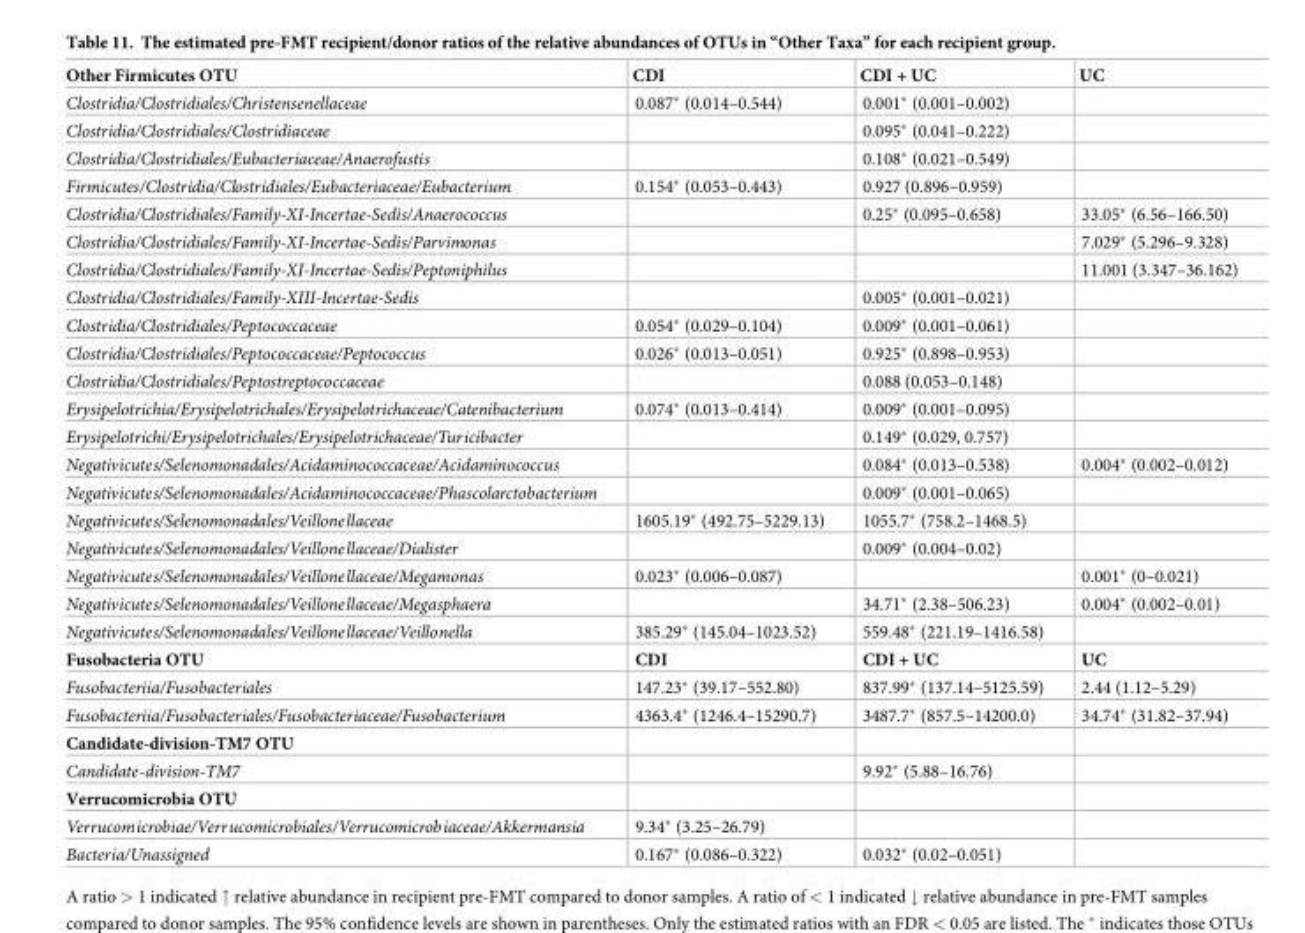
<table><thead><tr><td>Other Firmicutes OTU</td><td>CDI</td><td>CDI + UC</td><td>UC</td></tr></thead><tbody><tr><td>Clostridia/Clostridiales/Christensenellaceae</td><td>0.087* (0.014–0.544)</td><td>0.001* (0.001–0.002)</td><td></td></tr><tr><td>Clostridia/Clostridiales/Clostridiaceae</td><td></td><td>0.095* (0.041–0.222)</td><td></td></tr><tr><td>Clostridia/Clostridiales/Eubacteriaceae/Anaerofustis</td><td></td><td>0.108* (0.021–0.549)</td><td></td></tr><tr><td>Firmicutes/Clostridia/Clostridiales/Eubacteriaceae/Eubacterium</td><td>0.154* (0.053–0.443)</td><td>0.927 (0.896–0.959)</td><td></td></tr><tr><td>Clostridia/Clostridiales/Family-XI-Incertae-Sedis/Anaerococcus</td><td></td><td>0.25* (0.095–0.658)</td><td>33.05* (6.56–166.50)</td></tr><tr><td>Clostridia/Clostridiales/Family-XI-Incertae-Sedis/Parvimonas</td><td></td><td></td><td>7.029* (5.296–9.328)</td></tr><tr><td>Clostridia/Clostridiales/Family-XI-Incertae-Sedis/Peptoniphilus</td><td></td><td></td><td>11.001 (3.347–36.162)</td></tr><tr><td>Clostridia/Clostridiales/Family-XIII-Incertae-Sedis</td><td></td><td>0.005* (0.001–0.021)</td><td></td></tr><tr><td>Clostridia/Clostridiales/Peptococcaceae</td><td>0.054* (0.029–0.104)</td><td>0.009* (0.001–0.061)</td><td></td></tr><tr><td>Clostridia/Clostridiales/Peptococcaceae/Peptococcus</td><td>0.026* (0.013–0.051)</td><td>0.925* (0.898–0.953)</td><td></td></tr><tr><td>Clostridia/Clostridiales/Peptostreptococcaceae</td><td></td><td>0.088 (0.053–0.148)</td><td></td></tr><tr><td>Erysipelotrichia/Erysipelotrichales/Erysipelotrichaceae/Catenibacterium</td><td>0.074* (0.013–0.414)</td><td>0.009* (0.001–0.095)</td><td></td></tr><tr><td>Erysipelotrichi/Erysipelotrichales/Erysipelotrichaceae/Turicibacter</td><td></td><td>0.149* (0.029, 0.757)</td><td></td></tr><tr><td>Negativicutes/Selenomonadales/Acidaminococcaceae/Acidaminococcus</td><td></td><td>0.084* (0.013–0.538)</td><td>0.004* (0.002–0.012)</td></tr><tr><td>Negativicutes/Selenomonadales/Acidaminococcaceae/Phascolarctobacterium</td><td></td><td>0.009* (0.001–0.065)</td><td></td></tr><tr><td>Negativicutes/Selenomonadales/Veillonellaceae</td><td>1605.19* (492.75–5229.13)</td><td>1055.7* (758.2–1468.5)</td><td></td></tr><tr><td>Negativicutes/Selenomonadales/Veillonellaceae/Dialister</td><td></td><td>0.009* (0.004–0.02)</td><td></td></tr><tr><td>Negativicutes/Selenomonadales/Veillonellaceae/Megamonas</td><td>0.023* (0.006–0.087)</td><td></td><td>0.001* (0–0.021)</td></tr><tr><td>Negativicutes/Selenomonadales/Veillonellaceae/Megasphaera</td><td></td><td>34.71* (2.38–506.23)</td><td>0.004* (0.002–0.01)</td></tr><tr><td>Negativicutes/Selenomonadales/Veillonellaceae/Veillonella</td><td>385.29* (145.04–1023.52)</td><td>559.48* (221.19–1416.58)</td><td></td></tr><tr><td>Fusobacteria OTU</td><td>CDI</td><td>CDI + UC</td><td>UC</td></tr><tr><td>Fusobacteriia/Fusobacteriales</td><td>147.23* (39.17–552.80)</td><td>837.99* (137.14–5125.59)</td><td>2.44 (1.12–5.29)</td></tr><tr><td>Fusobacteriia/Fusobacteriales/Fusobacteriaceae/Fusobacterium</td><td>4363.4* (1246.4–15290.7)</td><td>3487.7* (857.5–14200.0)</td><td>34.74* (31.82–37.94)</td></tr><tr><td colspan="4">Candidate-division-TM7 OTU</td></tr><tr><td>Candidate-division-TM7</td><td></td><td>9.92* (5.88–16.76)</td><td></td></tr><tr><td colspan="4">Verrucomicrobia OTU</td></tr><tr><td>Verrucomicrobiae/Verrucomicrobiales/Verrucomicrobiaceae/Akkermansia</td><td>9.34* (3.25–26.79)</td><td></td><td></td></tr><tr><td>Bacteria/Unassigned</td><td>0.167* (0.086–0.322)</td><td>0.032* (0.02–0.051)</td><td></td></tr></tbody></table>